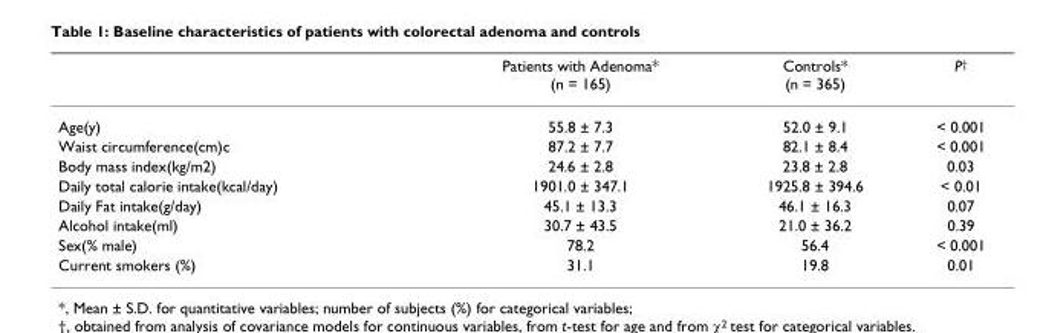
<table><thead><tr><td></td><td>Patients with Adenoma* (n = 165)</td><td>Controls* (n = 365)</td><td>P<sup>†</sup></td></tr></thead><tbody><tr><td>Age(y)</td><td>55.8 ± 7.3</td><td>52.0 ± 9.1</td><td>&lt; 0.001</td></tr><tr><td>Waist circumference(cm)c</td><td>87.2 ± 7.7</td><td>82.1 ± 8.4</td><td>&lt; 0.001</td></tr><tr><td>Body mass index(kg/m2)</td><td>24.6 ± 2.8</td><td>23.8 ± 2.8</td><td>0.03</td></tr><tr><td>Daily total calorie intake(kcal/day)</td><td>1901.0 ± 347.1</td><td>1925.8 ± 394.6</td><td>&lt; 0.01</td></tr><tr><td>Daily Fat intake(g/day)</td><td>45.1 ± 13.3</td><td>46.1 ± 16.3</td><td>0.07</td></tr><tr><td>Alcohol intake(ml)</td><td>30.7 ± 43.5</td><td>21.0 ± 36.2</td><td>0.39</td></tr><tr><td>Sex(% male)</td><td>78.2</td><td>56.4</td><td>&lt; 0.001</td></tr><tr><td>Current smokers (%)</td><td>31.1</td><td>19.8</td><td>0.01</td></tr></tbody></table>